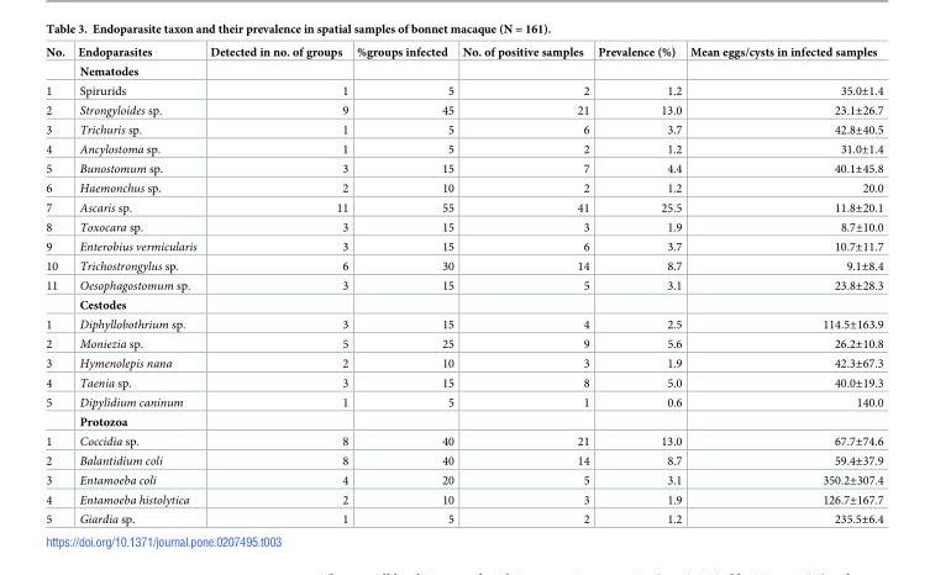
<table><thead><tr><td>No.</td><td>Endoparasites</td><td>Detected in no. of groups</td><td>%groups infected</td><td>No. of positive samples</td><td>Prevalence (%)</td><td>Mean eggs/cysts in infected samples</td></tr></thead><tbody><tr><td></td><td>Nematodes</td><td></td><td></td><td></td><td></td><td></td></tr><tr><td>1</td><td>Spirurids</td><td>1</td><td>5</td><td>2</td><td>1.2</td><td>35.0±1.4</td></tr><tr><td>2</td><td>Strongyloides sp.</td><td>9</td><td>45</td><td>21</td><td>13.0</td><td>23.1±26.7</td></tr><tr><td>3</td><td>Trichuris sp.</td><td>1</td><td>5</td><td>6</td><td>3.7</td><td>42.8±40.5</td></tr><tr><td>4</td><td>Ancylostoma sp.</td><td>1</td><td>5</td><td>2</td><td>1.2</td><td>31.0±1.4</td></tr><tr><td>5</td><td>Bunostomum sp.</td><td>3</td><td>15</td><td>7</td><td>4.4</td><td>40.1±45.8</td></tr><tr><td>6</td><td>Haemonchus sp.</td><td>2</td><td>10</td><td>2</td><td>1.2</td><td>20.0</td></tr><tr><td>7</td><td>Ascaris sp.</td><td>11</td><td>55</td><td>41</td><td>25.5</td><td>11.8±20.1</td></tr><tr><td>8</td><td>Toxocara sp.</td><td>3</td><td>15</td><td>3</td><td>1.9</td><td>8.7±10.0</td></tr><tr><td>9</td><td>Enterobius vermicularis</td><td>3</td><td>15</td><td>6</td><td>3.7</td><td>10.7±11.7</td></tr><tr><td>10</td><td>Trichostrongylus sp.</td><td>6</td><td>30</td><td>14</td><td>8.7</td><td>9.1±8.4</td></tr><tr><td rowspan="2">11</td><td>Oesophagostomum sp.</td><td>3</td><td>15</td><td>5</td><td>3.1</td><td>23.8±28.3</td></tr><tr><td>Cestodes</td><td></td><td></td><td></td><td></td><td></td></tr><tr><td>1</td><td>Diphyllobothrium sp.</td><td>3</td><td>15</td><td>4</td><td>2.5</td><td>114.5±163.9</td></tr><tr><td>2</td><td>Moniezia sp.</td><td>5</td><td>25</td><td>9</td><td>5.6</td><td>26.2±10.8</td></tr><tr><td>3</td><td>Hymenolepis nana</td><td>2</td><td>10</td><td>3</td><td>1.9</td><td>42.3±67.3</td></tr><tr><td>4</td><td>Taenia sp.</td><td>3</td><td>15</td><td>8</td><td>5.0</td><td>40.0±19.3</td></tr><tr><td rowspan="2">5</td><td>Dipylidium caninum</td><td>1</td><td>5</td><td>1</td><td>0.6</td><td>140.0</td></tr><tr><td>Protozoa</td><td></td><td></td><td></td><td></td><td></td></tr><tr><td>1</td><td>Coccidia sp.</td><td>8</td><td>40</td><td>21</td><td>13.0</td><td>67.7±74.6</td></tr><tr><td>2</td><td>Balantidium coli</td><td>8</td><td>40</td><td>14</td><td>8.7</td><td>59.4±37.9</td></tr><tr><td>3</td><td>Entamoeba coli</td><td>4</td><td>20</td><td>5</td><td>3.1</td><td>350.2±307.4</td></tr><tr><td>4</td><td>Entamoeba histolytica</td><td>2</td><td>10</td><td>3</td><td>1.9</td><td>126.7±167.7</td></tr><tr><td>5</td><td>Giardia sp.</td><td>1</td><td>5</td><td>2</td><td>1.2</td><td>235.5±6.4</td></tr></tbody></table>